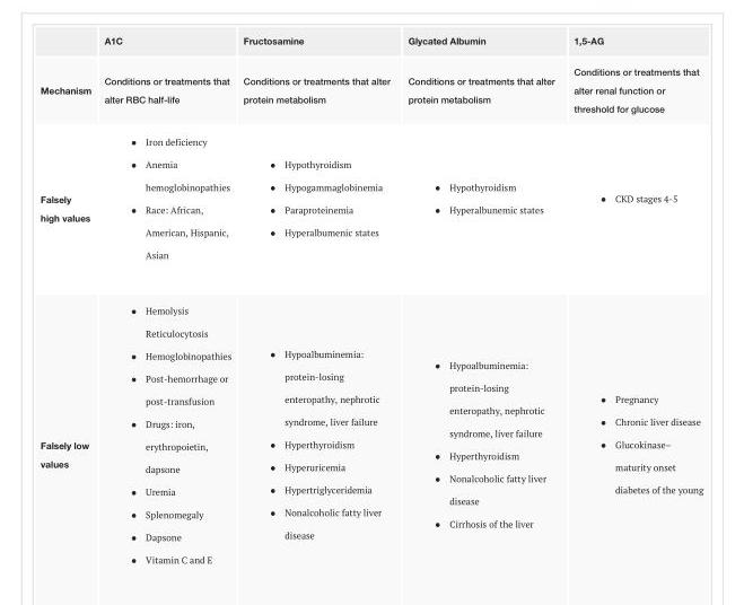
<table><thead><tr><td></td><td>A1C</td><td>Fructosamine</td><td>Glycated Albumin</td><td>1,5-AG</td></tr></thead><tbody><tr><td>Mechanism</td><td>Conditions or treatments that alter RBC half-life</td><td>Conditions or treatments that alter protein metabolism</td><td>Conditions or treatments that alter protein metabolism</td><td>Conditions or treatments that alter renal function or threshold for glucose</td></tr><tr><td>Falsely high values</td><td>Iron deficiency Anemia hemoglobinopathies Race: African, American, Hispanic, Asian</td><td>Hypothyroidism Hypogammaglobinemia Paraproteinemia Hyperalbumenic states</td><td>Hypothyroidism Hyperalbunemic states</td><td>CKD stages 4-5</td></tr><tr><td>Falsely low values</td><td>Hemolysis Reticulocytosis Hemoglobinopathies Post-hemorrhage or post-transfusion Drugs: iron, erythropoietin, dapsone Uremia Splenomegaly Dapsone Vitamin C and E</td><td>Hypoalbuminemia: protein-losing enteropathy, nephrotic syndrome, liver failure Hyperthyroidism Hyperuricemia Hypertriglyceridemia Nonalcoholic fatty liver disease</td><td>Hypoalbuminemia: protein-losing enteropathy, nephrotic syndrome, liver failure Hyperthyroidism Nonalcoholic fatty liver disease Cirrhosis of the liver</td><td>Pregnancy Chronic liver disease Glucokinase– maturity onset diabetes of the young</td></tr></tbody></table>